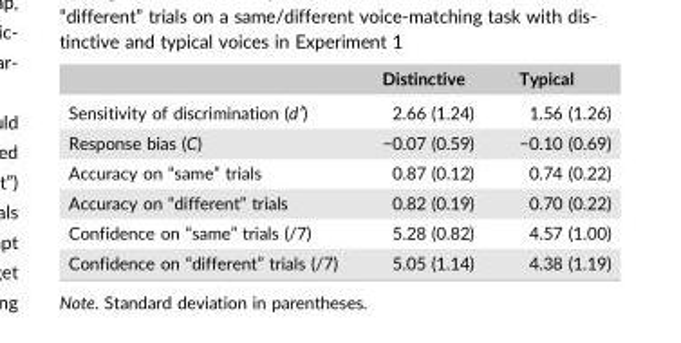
<table><thead><tr><td></td><td>Distinctive</td><td>Typical</td></tr></thead><tbody><tr><td>Sensitivity of discrimination (d′)</td><td>2.66 (1.24)</td><td>1.56 (1.26)</td></tr><tr><td>Response bias (C)</td><td>−0.07 (0.59)</td><td>−0.10 (0.69)</td></tr><tr><td>Accuracy on “same” trials</td><td>0.87 (0.12)</td><td>0.74 (0.22)</td></tr><tr><td>Accuracy on “different” trials</td><td>0.82 (0.19)</td><td>0.70 (0.22)</td></tr><tr><td>Confidence on “same” trials (/7)</td><td>5.28 (0.82)</td><td>4.57 (1.00)</td></tr><tr><td>Confidence on “different” trials (/7)</td><td>5.05 (1.14)</td><td>4.38 (1.19)</td></tr></tbody></table>